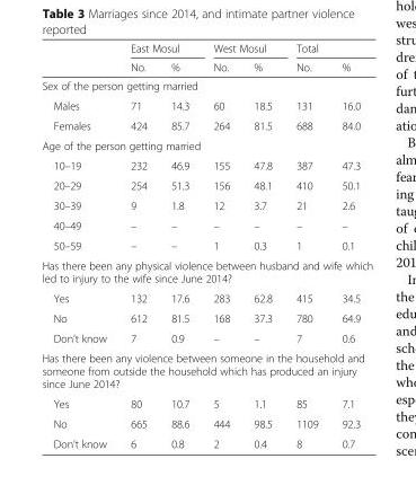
<table><thead><tr><td rowspan="2"></td><td colspan="2">East Mosul</td><td colspan="2">West Mosul</td><td colspan="2">Total</td></tr><tr><td>No.</td><td>%</td><td>No.</td><td>%</td><td>No.</td><td>%</td></tr></thead><tbody><tr><td colspan="7">Sex of the person getting married</td></tr><tr><td>Males</td><td>71</td><td>14.3</td><td>60</td><td>18.5</td><td>131</td><td>16.0</td></tr><tr><td>Females</td><td>424</td><td>85.7</td><td>264</td><td>81.5</td><td>688</td><td>84.0</td></tr><tr><td colspan="7">Age of the person getting married</td></tr><tr><td>10–19</td><td>232</td><td>46.9</td><td>155</td><td>47.8</td><td>387</td><td>47.3</td></tr><tr><td>20–29</td><td>254</td><td>51.3</td><td>156</td><td>48.1</td><td>410</td><td>50.1</td></tr><tr><td>30–39</td><td>9</td><td>1.8</td><td>12</td><td>3.7</td><td>21</td><td>2.6</td></tr><tr><td>40–49</td><td>–</td><td>–</td><td>–</td><td>–</td><td>–</td><td>–</td></tr><tr><td>50–59</td><td>–</td><td>–</td><td>1</td><td>0.3</td><td>1</td><td>0.1</td></tr><tr><td colspan="7">Has there been any physical violence between husband and wife which led to injury to the wife since June 2014?</td></tr><tr><td>Yes</td><td>132</td><td>17.6</td><td>283</td><td>62.8</td><td>415</td><td>34.5</td></tr><tr><td>No</td><td>612</td><td>81.5</td><td>168</td><td>37.3</td><td>780</td><td>64.9</td></tr><tr><td>Don’t know</td><td>7</td><td>0.9</td><td>–</td><td>–</td><td>7</td><td>0.6</td></tr><tr><td colspan="7">Has there been any violence between someone in the household and someone from outside the household which has produced an injury since June 2014?</td></tr><tr><td>Yes</td><td>80</td><td>10.7</td><td>5</td><td>1.1</td><td>85</td><td>7.1</td></tr><tr><td>No</td><td>665</td><td>88.6</td><td>444</td><td>98.5</td><td>1109</td><td>92.3</td></tr><tr><td>Don’t know</td><td>6</td><td>0.8</td><td>2</td><td>0.4</td><td>8</td><td>0.7</td></tr></tbody></table>